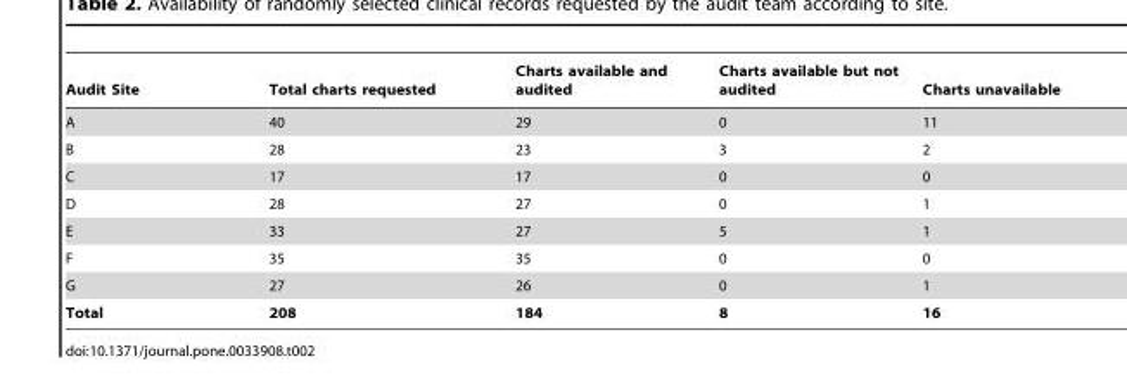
<table><thead><tr><td>Audit Site</td><td>Total charts requested</td><td>Charts available and audited</td><td>Charts available but not audited</td><td>Charts unavailable</td></tr></thead><tbody><tr><td>A</td><td>40</td><td>29</td><td>0</td><td>11</td></tr><tr><td>B</td><td>28</td><td>23</td><td>3</td><td>2</td></tr><tr><td>C</td><td>17</td><td>17</td><td>0</td><td>0</td></tr><tr><td>D</td><td>28</td><td>27</td><td>0</td><td>1</td></tr><tr><td>E</td><td>33</td><td>27</td><td>5</td><td>1</td></tr><tr><td>F</td><td>35</td><td>35</td><td>0</td><td>0</td></tr><tr><td>G</td><td>27</td><td>26</td><td>0</td><td>1</td></tr><tr><td>Total</td><td>208</td><td>184</td><td>8</td><td>16</td></tr></tbody></table>